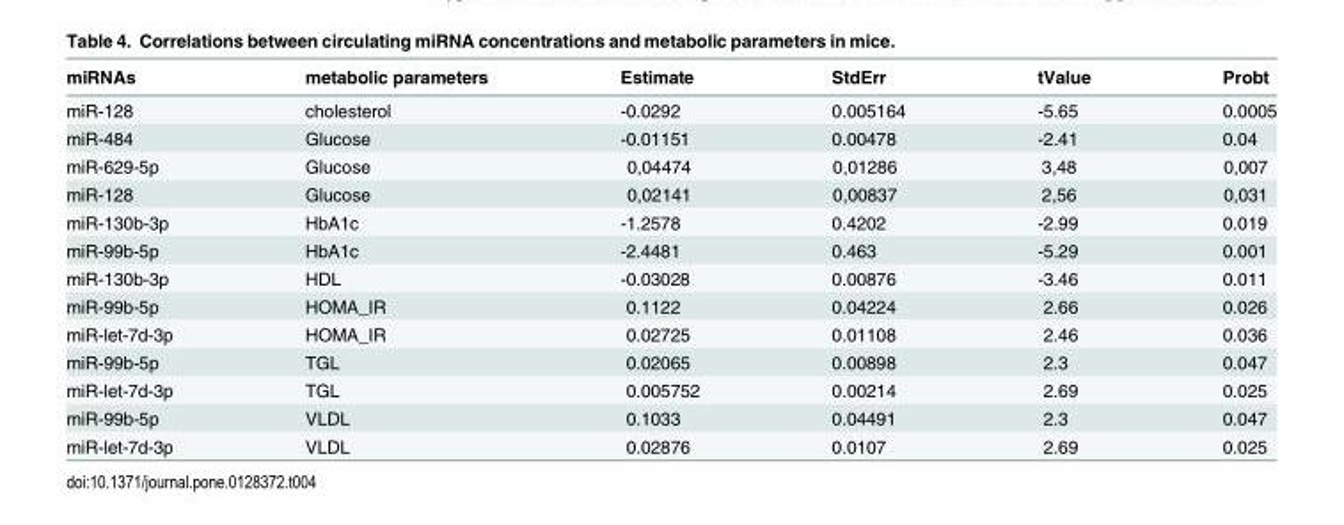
<table><thead><tr><td>miRNAs</td><td>metabolic parameters</td><td>Estimate</td><td>StdErr</td><td>tValue</td><td>Probt</td></tr></thead><tbody><tr><td>miR-128</td><td>cholesterol</td><td>-0.0292</td><td>0.005164</td><td>-5.65</td><td>0.0005</td></tr><tr><td>miR-484</td><td>Glucose</td><td>-0.01151</td><td>0.00478</td><td>-2.41</td><td>0.04</td></tr><tr><td>miR-629-5p</td><td>Glucose</td><td>0,04474</td><td>0,01286</td><td>3,48</td><td>0,007</td></tr><tr><td>miR-128</td><td>Glucose</td><td>0,02141</td><td>0,00837</td><td>2,56</td><td>0,031</td></tr><tr><td>miR-130b-3p</td><td>HbA1c</td><td>-1.2578</td><td>0.4202</td><td>-2.99</td><td>0.019</td></tr><tr><td>miR-99b-5p</td><td>HbA1c</td><td>-2.4481</td><td>0.463</td><td>-5.29</td><td>0.001</td></tr><tr><td>miR-130b-3p</td><td>HDL</td><td>-0.03028</td><td>0.00876</td><td>-3.46</td><td>0.011</td></tr><tr><td>miR-99b-5p</td><td>HOMA_IR</td><td>0.1122</td><td>0.04224</td><td>2.66</td><td>0.026</td></tr><tr><td>miR-let-7d-3p</td><td>HOMA_IR</td><td>0.02725</td><td>0.01108</td><td>2.46</td><td>0.036</td></tr><tr><td>miR-99b-5p</td><td>TGL</td><td>0.02065</td><td>0.00898</td><td>2.3</td><td>0.047</td></tr><tr><td>miR-let-7d-3p</td><td>TGL</td><td>0.005752</td><td>0.00214</td><td>2.69</td><td>0.025</td></tr><tr><td>miR-99b-5p</td><td>VLDL</td><td>0.1033</td><td>0.04491</td><td>2.3</td><td>0.047</td></tr><tr><td>miR-let-7d-3p</td><td>VLDL</td><td>0.02876</td><td>0.0107</td><td>2.69</td><td>0.025</td></tr></tbody></table>